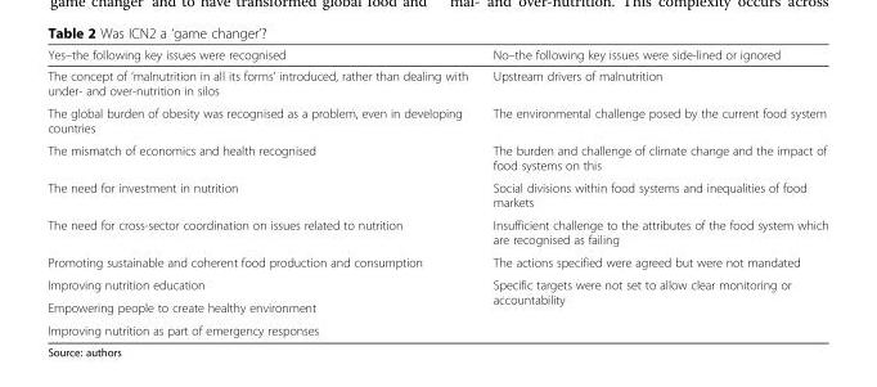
<table><thead><tr><td>Yes–the following key issues were recognised</td><td>No–the following key issues were side-lined or ignored</td></tr></thead><tbody><tr><td>The concept of ‘malnutrition in all its forms’ introduced, rather than dealing with under- and over-nutrition in silos</td><td>Upstream drivers of malnutrition</td></tr><tr><td>The global burden of obesity was recognised as a problem, even in developing countries</td><td>The environmental challenge posed by the current food system</td></tr><tr><td>The mismatch of economics and health recognised</td><td>The burden and challenge of climate change and the impact of food systems on this</td></tr><tr><td>The need for investment in nutrition</td><td>Social divisions within food systems and inequalities of food markets</td></tr><tr><td>The need for cross-sector coordination on issues related to nutrition</td><td>Insufficient challenge to the attributes of the food system which are recognised as failing</td></tr><tr><td>Promoting sustainable and coherent food production and consumption</td><td>The actions specified were agreed but were not mandated</td></tr><tr><td>Improving nutrition education</td><td rowspan="3">Specific targets were not set to allow clear monitoring or accountability</td></tr><tr><td>Empowering people to create healthy environment</td></tr><tr><td>Improving nutrition as part of emergency responses</td></tr></tbody></table>